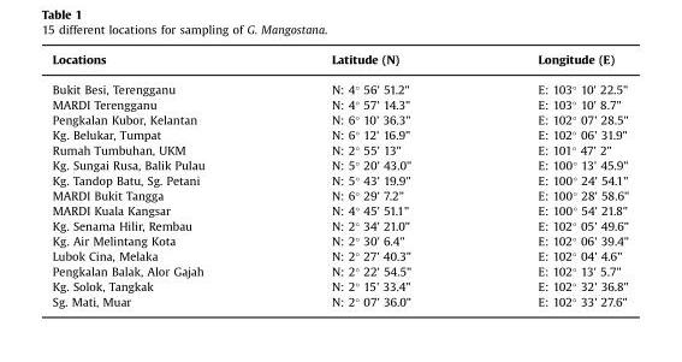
<table><thead><tr><td>Locations</td><td>Latitude (N)</td><td>Longitude (E)</td></tr></thead><tbody><tr><td>Bukit Besi, Terengganu</td><td>N: 4° 56&#x27; 51.2&quot;</td><td>E: 103° 10&#x27; 22.5&quot;</td></tr><tr><td>MARDI Terengganu</td><td>N: 4° 57&#x27; 14.3&quot;</td><td>E: 103° 10&#x27; 8.7&quot;</td></tr><tr><td>Pengkalan Kubor, Kelantan</td><td>N: 6° 10&#x27; 36.3&quot;</td><td>E: 102° 07&#x27; 28.5&quot;</td></tr><tr><td>Kg. Belukar, Tumpat</td><td>N: 6° 12&#x27; 16.9&quot;</td><td>E: 102° 06&#x27; 31.9&quot;</td></tr><tr><td>Rumah Tumbuhan, UKM</td><td>N: 2° 55&#x27; 13&quot;</td><td>E: 101° 47&#x27; 2&quot;</td></tr><tr><td>Kg. Sungai Rusa, Balik Pulau</td><td>N: 5° 20&#x27; 43.0&quot;</td><td>E: 100° 13&#x27; 45.9&quot;</td></tr><tr><td>Kg. Tandop Batu, Sg. Petani</td><td>N: 5° 43&#x27; 19.9&quot;</td><td>E: 100° 24&#x27; 54.1&quot;</td></tr><tr><td>MARDI Bukit Tangga</td><td>N: 6° 29&#x27; 7.2&quot;</td><td>E: 100° 28&#x27; 58.6&quot;</td></tr><tr><td>MARDI Kuala Kangsar</td><td>N: 4° 45&#x27; 51.1&quot;</td><td>E: 100° 54&#x27; 21.8&quot;</td></tr><tr><td>Kg. Senama Hilir, Rembau</td><td>N: 2° 34&#x27; 21.0&quot;</td><td>E: 102° 05&#x27; 49.6&quot;</td></tr><tr><td>Kg. Air Melintang Kota</td><td>N: 2° 30&#x27; 6.4&quot;</td><td>E: 102° 06&#x27; 39.4&quot;</td></tr><tr><td>Lubok Cina, Melaka</td><td>N: 2° 27&#x27; 40.3&quot;</td><td>E: 102° 04&#x27; 4.6&quot;</td></tr><tr><td>Pengkalan Balak, Alor Gajah</td><td>N: 2° 22&#x27; 54.5&quot;</td><td>E: 102° 13&#x27; 5.7&quot;</td></tr><tr><td>Kg. Solok, Tangkak</td><td>N: 2° 15&#x27; 33.4&quot;</td><td>E: 102° 32&#x27; 36.8&quot;</td></tr><tr><td>Sg. Mati, Muar</td><td>N: 2° 07&#x27; 36.0&quot;</td><td>E: 102° 33&#x27; 27.6&quot;</td></tr></tbody></table>